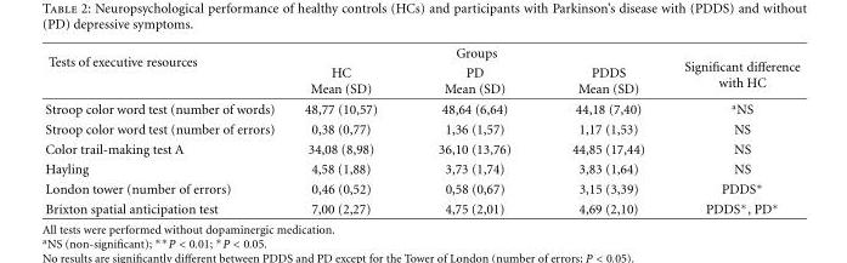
<table><thead><tr><td rowspan="2">Tests of executive resources</td><td colspan="3">Groups</td><td rowspan="2">Significant difference with HC</td></tr><tr><td>HC Mean (SD)</td><td>PD Mean (SD)</td><td>PDDS Mean (SD)</td></tr></thead><tbody><tr><td>Stroop color word test (number of words)</td><td>48,77 (10,57)</td><td>48,64 (6,64)</td><td>44,18 (7,40)</td><td><sup>a</sup>NS</td></tr><tr><td>Stroop color word test (number of errors)</td><td>0,38 (0,77)</td><td>1,36 (1,57)</td><td>1,17 (1,53)</td><td>NS</td></tr><tr><td>Color trail-making test A</td><td>34,08 (8,98)</td><td>36,10 (13,76)</td><td>44,85 (17,44)</td><td>NS</td></tr><tr><td>Hayling</td><td>4,58 (1,88)</td><td>3,73 (1,74)</td><td>3,83 (1,64)</td><td>NS</td></tr><tr><td>London tower (number of errors)</td><td>0,46 (0,52)</td><td>0,58 (0,67)</td><td>3,15 (3,39)</td><td>PDDS∗</td></tr><tr><td>Brixton spatial anticipation test</td><td>7,00 (2,27)</td><td>4,75 (2,01)</td><td>4,69 (2,10)</td><td>PDDS∗, PD∗</td></tr></tbody></table>